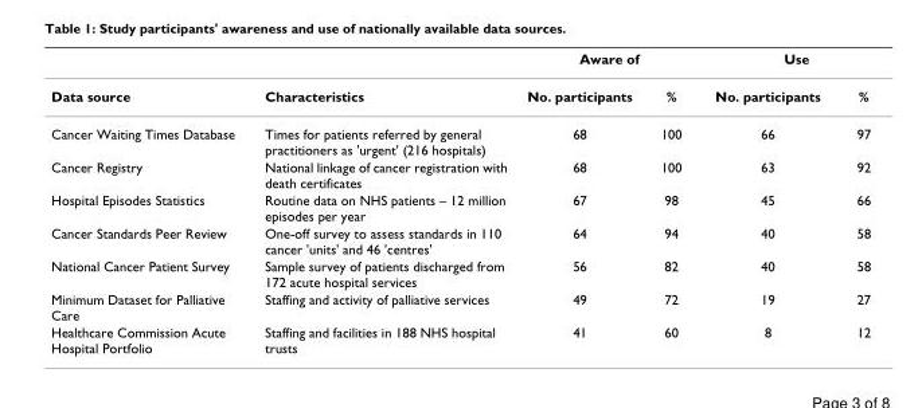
<table><thead><tr><td rowspan="2">Data source</td><td rowspan="2">Characteristics</td><td colspan="2">Aware of</td><td colspan="2">Use</td></tr><tr><td>No. participants</td><td>%</td><td>No. participants</td><td>%</td></tr></thead><tbody><tr><td>Cancer Waiting Times Database</td><td>Times for patients referred by general practitioners as &#x27;urgent&#x27; (216 hospitals)</td><td>68</td><td>100</td><td>66</td><td>97</td></tr><tr><td>Cancer Registry</td><td>National linkage of cancer registration with death certificates</td><td>68</td><td>100</td><td>63</td><td>92</td></tr><tr><td>Hospital Episodes Statistics</td><td>Routine data on NHS patients – 12 million episodes per year</td><td>67</td><td>98</td><td>45</td><td>66</td></tr><tr><td>Cancer Standards Peer Review</td><td>One-off survey to assess standards in 110 cancer &#x27;units&#x27; and 46 &#x27;centres&#x27;</td><td>64</td><td>94</td><td>40</td><td>58</td></tr><tr><td>National Cancer Patient Survey</td><td>Sample survey of patients discharged from 172 acute hospital services</td><td>56</td><td>82</td><td>40</td><td>58</td></tr><tr><td>Minimum Dataset for Palliative Care</td><td>Staffing and activity of palliative services</td><td>49</td><td>72</td><td>19</td><td>27</td></tr><tr><td>Healthcare Commission Acute Hospital Portfolio</td><td>Staffing and facilities in 188 NHS hospital trusts</td><td>41</td><td>60</td><td>8</td><td>12</td></tr></tbody></table>